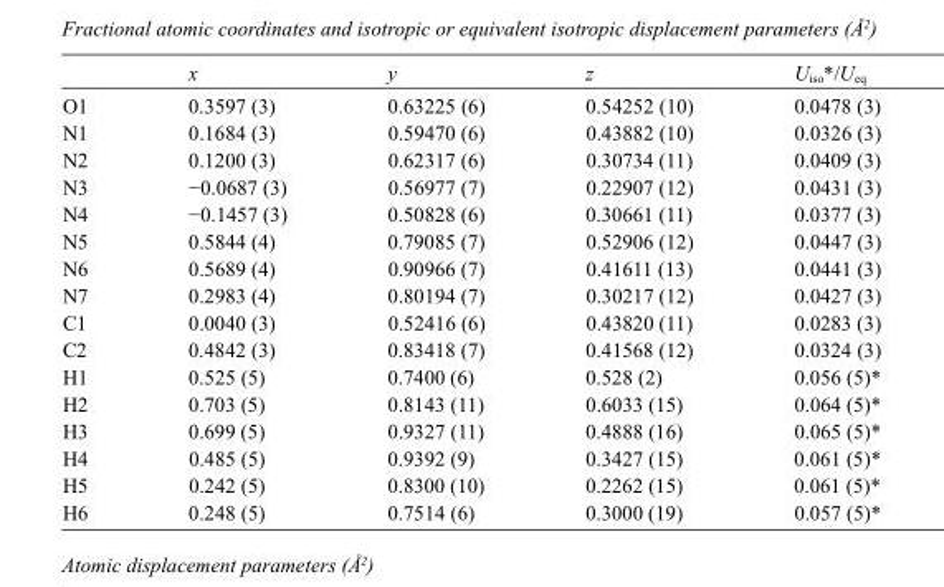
<table><thead><tr><td></td><td>x</td><td>y</td><td>z</td><td>U<sub>iso</sub>*/U<sub>eq</sub></td></tr></thead><tbody><tr><td>O1</td><td>0.3597 (3)</td><td>0.63225 (6)</td><td>0.54252 (10)</td><td>0.0478 (3)</td></tr><tr><td>N1</td><td>0.1684 (3)</td><td>0.59470 (6)</td><td>0.43882 (10)</td><td>0.0326 (3)</td></tr><tr><td>N2</td><td>0.1200 (3)</td><td>0.62317 (6)</td><td>0.30734 (11)</td><td>0.0409 (3)</td></tr><tr><td>N3</td><td>−0.0687 (3)</td><td>0.56977 (7)</td><td>0.22907 (12)</td><td>0.0431 (3)</td></tr><tr><td>N4</td><td>−0.1457 (3)</td><td>0.50828 (6)</td><td>0.30661 (11)</td><td>0.0377 (3)</td></tr><tr><td>N5</td><td>0.5844 (4)</td><td>0.79085 (7)</td><td>0.52906 (12)</td><td>0.0447 (3)</td></tr><tr><td>N6</td><td>0.5689 (4)</td><td>0.90966 (7)</td><td>0.41611 (13)</td><td>0.0441 (3)</td></tr><tr><td>N7</td><td>0.2983 (4)</td><td>0.80194 (7)</td><td>0.30217 (12)</td><td>0.0427 (3)</td></tr><tr><td>C1</td><td>0.0040 (3)</td><td>0.52416 (6)</td><td>0.43820 (11)</td><td>0.0283 (3)</td></tr><tr><td>C2</td><td>0.4842 (3)</td><td>0.83418 (7)</td><td>0.41568 (12)</td><td>0.0324 (3)</td></tr><tr><td>H1</td><td>0.525 (5)</td><td>0.7400 (6)</td><td>0.528 (2)</td><td>0.056 (5)*</td></tr><tr><td>H2</td><td>0.703 (5)</td><td>0.8143 (11)</td><td>0.6033 (15)</td><td>0.064 (5)*</td></tr><tr><td>H3</td><td>0.699 (5)</td><td>0.9327 (11)</td><td>0.4888 (16)</td><td>0.065 (5)*</td></tr><tr><td>H4</td><td>0.485 (5)</td><td>0.9392 (9)</td><td>0.3427 (15)</td><td>0.061 (5)*</td></tr><tr><td>H5</td><td>0.242 (5)</td><td>0.8300 (10)</td><td>0.2262 (15)</td><td>0.061 (5)*</td></tr><tr><td>H6</td><td>0.248 (5)</td><td>0.7514 (6)</td><td>0.3000 (19)</td><td>0.057 (5)*</td></tr></tbody></table>